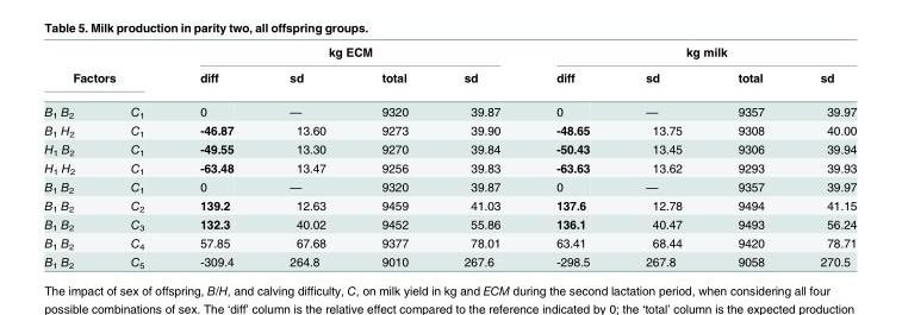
<table><thead><tr><td></td><td></td><td colspan="4">kg ECM</td><td colspan="4">kg milk</td></tr><tr><td colspan="2">Factors</td><td>diff</td><td>sd</td><td>total</td><td>sd</td><td>diff</td><td>sd</td><td>total</td><td>sd</td></tr></thead><tbody><tr><td>B<sub>1</sub> B<sub>2</sub></td><td>C<sub>1</sub></td><td>0</td><td>—</td><td>9320</td><td>39.87</td><td>0</td><td>—</td><td>9357</td><td>39.97</td></tr><tr><td>B<sub>1</sub> H<sub>2</sub></td><td>C<sub>1</sub></td><td>-46.87</td><td>13.60</td><td>9273</td><td>39.90</td><td>-48.65</td><td>13.75</td><td>9308</td><td>40.00</td></tr><tr><td>H<sub>1</sub> B<sub>2</sub></td><td>C<sub>1</sub></td><td>-49.55</td><td>13.30</td><td>9270</td><td>39.84</td><td>-50.43</td><td>13.45</td><td>9306</td><td>39.94</td></tr><tr><td>H<sub>1</sub> H<sub>2</sub></td><td>C<sub>1</sub></td><td>-63.48</td><td>13.47</td><td>9256</td><td>39.83</td><td>-63.63</td><td>13.62</td><td>9293</td><td>39.93</td></tr><tr><td>B<sub>1</sub> B<sub>2</sub></td><td>C<sub>1</sub></td><td>0</td><td>—</td><td>9320</td><td>39.87</td><td>0</td><td>—</td><td>9357</td><td>39.97</td></tr><tr><td>B<sub>1</sub> B<sub>2</sub></td><td>C<sub>2</sub></td><td>139.2</td><td>12.63</td><td>9459</td><td>41.03</td><td>137.6</td><td>12.78</td><td>9494</td><td>41.15</td></tr><tr><td>B<sub>1</sub> B<sub>2</sub></td><td>C<sub>3</sub></td><td>132.3</td><td>40.02</td><td>9452</td><td>55.86</td><td>136.1</td><td>40.47</td><td>9493</td><td>56.24</td></tr><tr><td>B<sub>1</sub> B<sub>2</sub></td><td>C<sub>4</sub></td><td>57.85</td><td>67.68</td><td>9377</td><td>78.01</td><td>63.41</td><td>68.44</td><td>9420</td><td>78.71</td></tr><tr><td>B<sub>1</sub> B<sub>2</sub></td><td>C<sub>5</sub></td><td>-309.4</td><td>264.8</td><td>9010</td><td>267.6</td><td>-298.5</td><td>267.8</td><td>9058</td><td>270.5</td></tr></tbody></table>